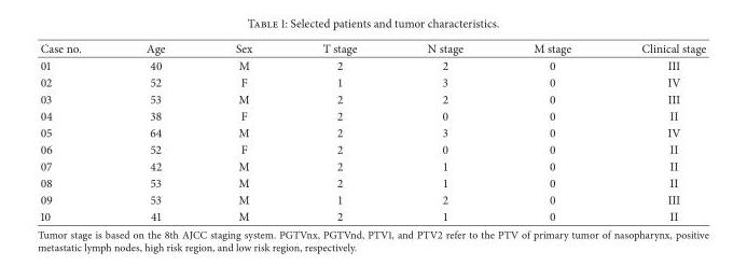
<table><thead><tr><td>Case no.</td><td>Age</td><td>Sex</td><td>T stage</td><td>N stage</td><td>M stage</td><td>Clinical stage</td></tr></thead><tbody><tr><td>01</td><td>40</td><td>M</td><td>2</td><td>2</td><td>0</td><td>III</td></tr><tr><td>02</td><td>52</td><td>F</td><td>1</td><td>3</td><td>0</td><td>IV</td></tr><tr><td>03</td><td>53</td><td>M</td><td>2</td><td>2</td><td>0</td><td>III</td></tr><tr><td>04</td><td>38</td><td>F</td><td>2</td><td>0</td><td>0</td><td>II</td></tr><tr><td>05</td><td>64</td><td>M</td><td>2</td><td>3</td><td>0</td><td>IV</td></tr><tr><td>06</td><td>52</td><td>F</td><td>2</td><td>0</td><td>0</td><td>II</td></tr><tr><td>07</td><td>42</td><td>M</td><td>2</td><td>1</td><td>0</td><td>II</td></tr><tr><td>08</td><td>53</td><td>M</td><td>2</td><td>1</td><td>0</td><td>II</td></tr><tr><td>09</td><td>53</td><td>M</td><td>1</td><td>2</td><td>0</td><td>III</td></tr><tr><td>10</td><td>41</td><td>M</td><td>2</td><td>1</td><td>0</td><td>II</td></tr></tbody></table>